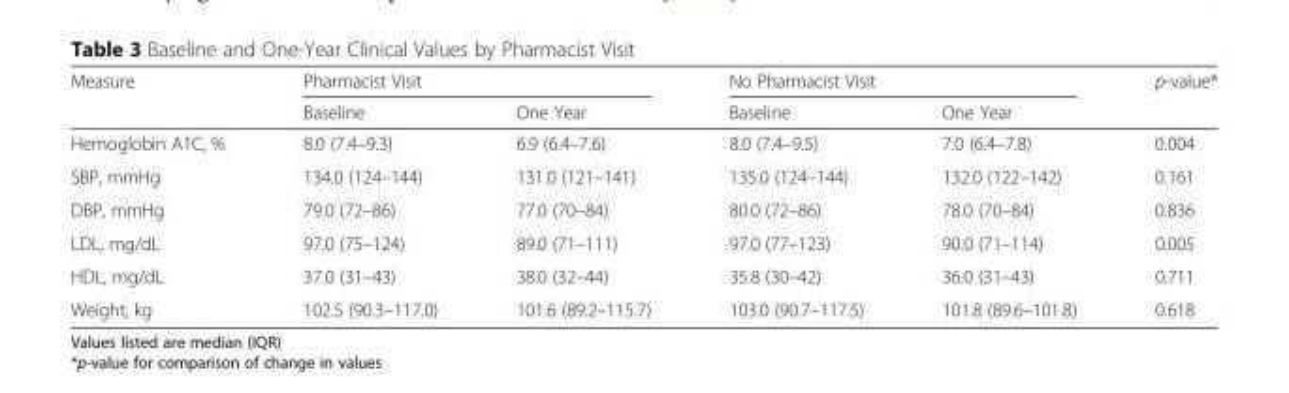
<table><thead><tr><td rowspan="2">Measure</td><td colspan="2">Pharmacist Visit</td><td colspan="2">No Pharmacist Visit</td><td rowspan="2">p-value*</td></tr><tr><td>Baseline</td><td>One Year</td><td>Baseline</td><td>One Year</td></tr></thead><tbody><tr><td>Hemoglobin A1C, %</td><td>8.0 (7.4–9.3)</td><td>6.9 (6.4–7.6)</td><td>8.0 (7.4–9.5)</td><td>7.0 (6.4–7.8)</td><td>0.004</td></tr><tr><td>SBP, mmHg</td><td>134.0 (124–144)</td><td>131.0 (121–141)</td><td>135.0 (124–144)</td><td>132.0 (122–142)</td><td>0.161</td></tr><tr><td>DBP, mmHg</td><td>79.0 (72–86)</td><td>77.0 (70–84)</td><td>80.0 (72–86)</td><td>78.0 (70–84)</td><td>0.836</td></tr><tr><td>LDL, mg/dL</td><td>97.0 (75–124)</td><td>89.0 (71–111)</td><td>97.0 (77–123)</td><td>90.0 (71–114)</td><td>0.005</td></tr><tr><td>HDL, mg/dL</td><td>37.0 (31–43)</td><td>38.0 (32–44)</td><td>35.8 (30–42)</td><td>36.0 (31–43)</td><td>0.711</td></tr><tr><td>Weight, kg</td><td>102.5 (90.3–117.0)</td><td>101.6 (89.2–115.7)</td><td>103.0 (90.7–117.5)</td><td>101.8 (89.6–101.8)</td><td>0.618</td></tr></tbody></table>